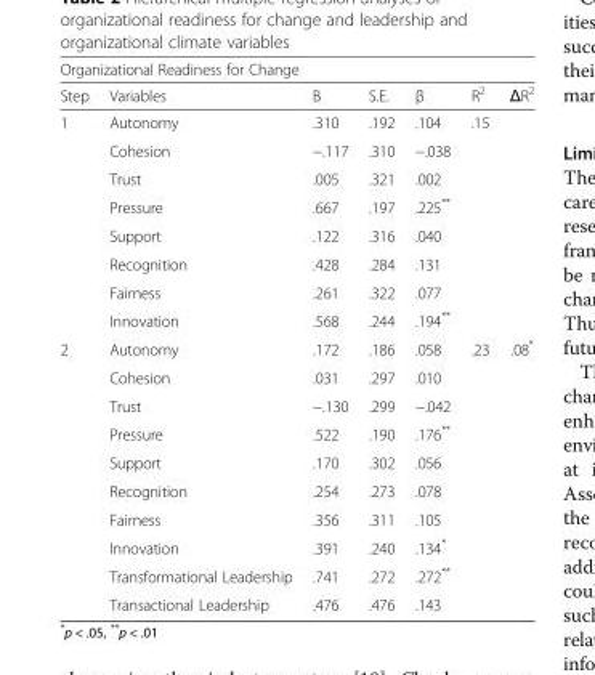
<table><thead><tr><td colspan="7">Organizational Readiness for Change</td></tr><tr><td>Step</td><td>Variables</td><td>B</td><td>S.E.</td><td>β</td><td>R<sup>2</sup></td><td>ΔR<sup>2</sup></td></tr></thead><tbody><tr><td rowspan="8">1</td><td>Autonomy</td><td>.310</td><td>.192</td><td>.104</td><td>.15</td><td></td></tr><tr><td>Cohesion</td><td>−.117</td><td>.310</td><td>−.038</td><td></td><td></td></tr><tr><td>Trust</td><td>.005</td><td>.321</td><td>.002</td><td></td><td></td></tr><tr><td>Pressure</td><td>.667</td><td>.197</td><td>.225**</td><td></td><td></td></tr><tr><td>Support</td><td>.122</td><td>.316</td><td>.040</td><td></td><td></td></tr><tr><td>Recognition</td><td>.428</td><td>.284</td><td>.131</td><td></td><td></td></tr><tr><td>Fairness</td><td>.261</td><td>.322</td><td>.077</td><td></td><td></td></tr><tr><td>Innovation</td><td>.568</td><td>.244</td><td>.194**</td><td></td><td></td></tr><tr><td rowspan="10">2</td><td>Autonomy</td><td>.172</td><td>.186</td><td>.058</td><td>.23</td><td>.08*</td></tr><tr><td>Cohesion</td><td>.031</td><td>.297</td><td>.010</td><td></td><td></td></tr><tr><td>Trust</td><td>−.130</td><td>.299</td><td>−.042</td><td></td><td></td></tr><tr><td>Pressure</td><td>.522</td><td>.190</td><td>.176**</td><td></td><td></td></tr><tr><td>Support</td><td>.170</td><td>.302</td><td>.056</td><td></td><td></td></tr><tr><td>Recognition</td><td>.254</td><td>.273</td><td>.078</td><td></td><td></td></tr><tr><td>Fairness</td><td>.356</td><td>.311</td><td>.105</td><td></td><td></td></tr><tr><td>Innovation</td><td>.391</td><td>.240</td><td>.134*</td><td></td><td></td></tr><tr><td>Transformational Leadership</td><td>.741</td><td>.272</td><td>.272**</td><td></td><td></td></tr><tr><td>Transactional Leadership</td><td>.476</td><td>.476</td><td>.143</td><td></td><td></td></tr></tbody></table>